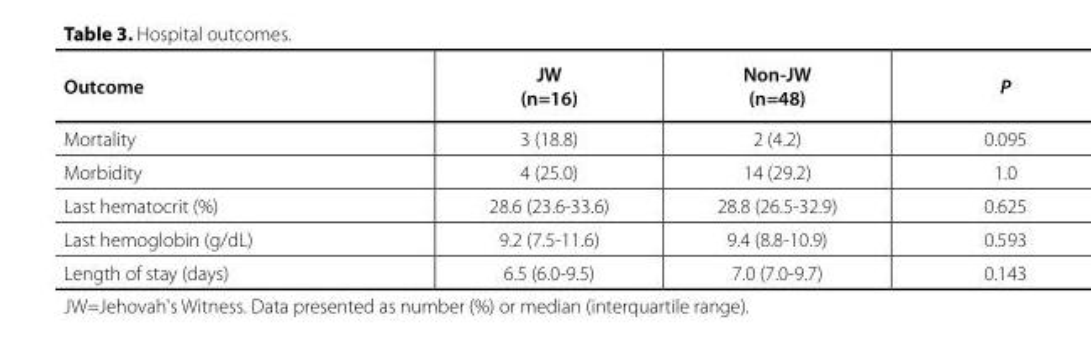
<table><thead><tr><td>Outcome</td><td>JW (n=16)</td><td>Non-JW (n=48)</td><td>P</td></tr></thead><tbody><tr><td>Mortality</td><td>3 (18.8)</td><td>2 (4.2)</td><td>0.095</td></tr><tr><td>Morbidity</td><td>4 (25.0)</td><td>14 (29.2)</td><td>1.0</td></tr><tr><td>Last hematocrit (%)</td><td>28.6 (23.6-33.6)</td><td>28.8 (26.5-32.9)</td><td>0.625</td></tr><tr><td>Last hemoglobin (g/dL)</td><td>9.2 (7.5-11.6)</td><td>9.4 (8.8-10.9)</td><td>0.593</td></tr><tr><td>Length of stay (days)</td><td>6.5 (6.0-9.5)</td><td>7.0 (7.0-9.7)</td><td>0.143</td></tr></tbody></table>